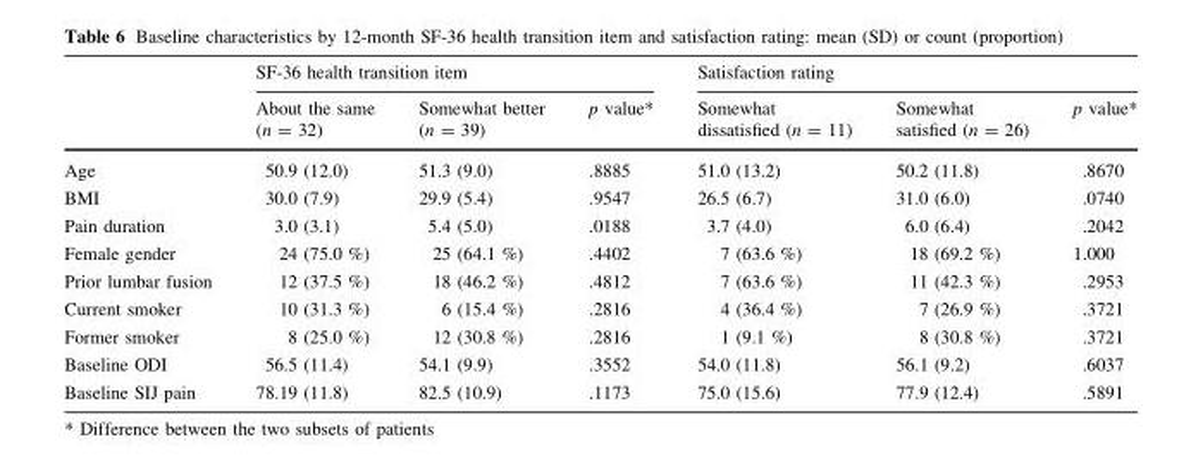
<table><thead><tr><td rowspan="2"></td><td colspan="3">SF-36 health transition item</td><td colspan="3">Satisfaction rating</td></tr><tr><td>About the same (n = 32)</td><td>Somewhat better (n = 39)</td><td>p value*</td><td>Somewhat dissatisfied (n = 11)</td><td>Somewhat satisfied (n = 26)</td><td>p value*</td></tr></thead><tbody><tr><td>Age</td><td>50.9 (12.0)</td><td>51.3 (9.0)</td><td>.8885</td><td>51.0 (13.2)</td><td>50.2 (11.8)</td><td>.8670</td></tr><tr><td>BMI</td><td>30.0 (7.9)</td><td>29.9 (5.4)</td><td>.9547</td><td>26.5 (6.7)</td><td>31.0 (6.0)</td><td>.0740</td></tr><tr><td>Pain duration</td><td>3.0 (3.1)</td><td>5.4 (5.0)</td><td>.0188</td><td>3.7 (4.0)</td><td>6.0 (6.4)</td><td>.2042</td></tr><tr><td>Female gender</td><td>24 (75.0 %)</td><td>25 (64.1 %)</td><td>.4402</td><td>7 (63.6 %)</td><td>18 (69.2 %)</td><td>1.000</td></tr><tr><td>Prior lumbar fusion</td><td>12 (37.5 %)</td><td>18 (46.2 %)</td><td>.4812</td><td>7 (63.6 %)</td><td>11 (42.3 %)</td><td>.2953</td></tr><tr><td>Current smoker</td><td>10 (31.3 %)</td><td>6 (15.4 %)</td><td>.2816</td><td>4 (36.4 %)</td><td>7 (26.9 %)</td><td>.3721</td></tr><tr><td>Former smoker</td><td>8 (25.0 %)</td><td>12 (30.8 %)</td><td>.2816</td><td>1 (9.1 %)</td><td>8 (30.8 %)</td><td>.3721</td></tr><tr><td>Baseline ODI</td><td>56.5 (11.4)</td><td>54.1 (9.9)</td><td>.3552</td><td>54.0 (11.8)</td><td>56.1 (9.2)</td><td>.6037</td></tr><tr><td>Baseline SIJ pain</td><td>78.19 (11.8)</td><td>82.5 (10.9)</td><td>.1173</td><td>75.0 (15.6)</td><td>77.9 (12.4)</td><td>.5891</td></tr></tbody></table>